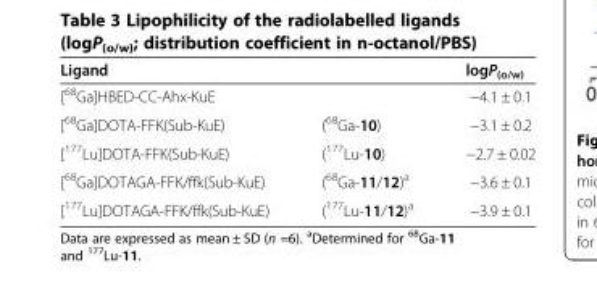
<table><thead><tr><td colspan="2">Ligand</td><td rowspan="2">logP<sub>(o/w)</sub> −4.1 ± 0.1</td></tr><tr><td>[<sup>68</sup>Ga]HBED-CC-Ahx-KuE</td><td></td></tr></thead><tbody><tr><td>[<sup>68</sup>Ga]DOTA-FFK(Sub-KuE)</td><td>(<sup>68</sup>Ga-10)</td><td>−3.1 ± 0.2</td></tr><tr><td>[<sup>177</sup>Lu]DOTA-FFK(Sub-KuE)</td><td>(<sup>177</sup>Lu-10)</td><td>−2.7 ± 0.02</td></tr><tr><td>[<sup>68</sup>Ga]DOTAGA-FFK/ffk(Sub-KuE)</td><td>(<sup>68</sup>Ga-11/12)<sup>a</sup></td><td>−3.6 ± 0.1</td></tr><tr><td>[<sup>177</sup>Lu]DOTAGA-FFK/ffk(Sub-KuE)</td><td>(<sup>177</sup>Lu-11/12)<sup>a</sup></td><td>−3.9 ± 0.1</td></tr></tbody></table>